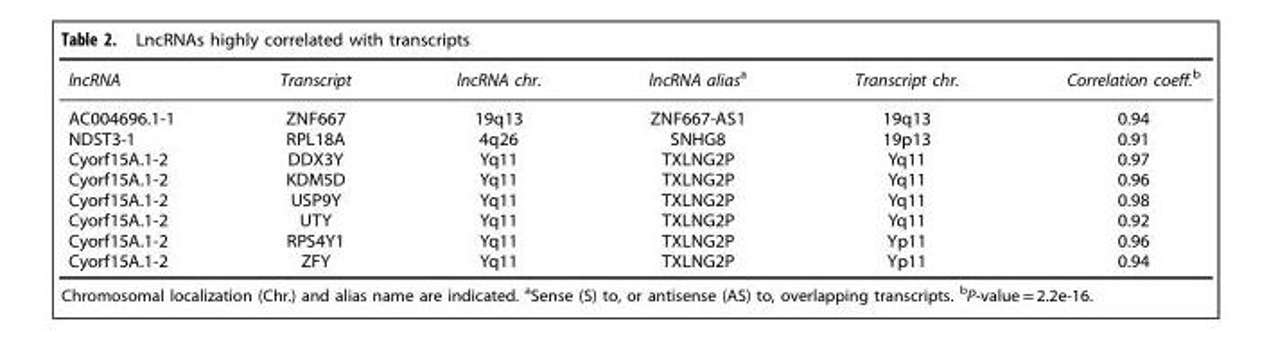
<table><thead><tr><td>lncRNA</td><td>Transcript</td><td>lncRNA chr.</td><td>lncRNA alias<sup>a</sup></td><td>Transcript chr.</td><td>Correlation coeff.<sup>b</sup></td></tr></thead><tbody><tr><td>AC004696.1-1</td><td>ZNF667</td><td>19q13</td><td>ZNF667-AS1</td><td>19q13</td><td>0.94</td></tr><tr><td>NDST3-1</td><td>RPL18A</td><td>4q26</td><td>SNHG8</td><td>19p13</td><td>0.91</td></tr><tr><td>Cyorf15A.1-2</td><td>DDX3Y</td><td>Yq11</td><td>TXLNG2P</td><td>Yq11</td><td>0.97</td></tr><tr><td>Cyorf15A.1-2</td><td>KDM5D</td><td>Yq11</td><td>TXLNG2P</td><td>Yq11</td><td>0.96</td></tr><tr><td>Cyorf15A.1-2</td><td>USP9Y</td><td>Yq11</td><td>TXLNG2P</td><td>Yq11</td><td>0.98</td></tr><tr><td>Cyorf15A.1-2</td><td>UTY</td><td>Yq11</td><td>TXLNG2P</td><td>Yq11</td><td>0.92</td></tr><tr><td>Cyorf15A.1-2</td><td>RPS4Y1</td><td>Yq11</td><td>TXLNG2P</td><td>Yp11</td><td>0.96</td></tr><tr><td>Cyorf15A.1-2</td><td>ZFY</td><td>Yq11</td><td>TXLNG2P</td><td>Yp11</td><td>0.94</td></tr></tbody></table>